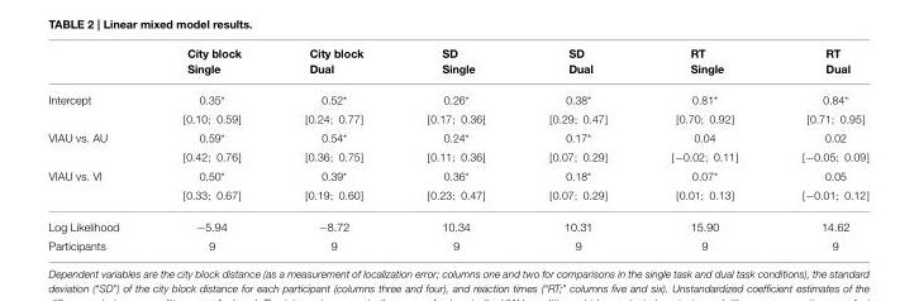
<table><thead><tr><td></td><td>City block Single</td><td>City block Dual</td><td>SD Single</td><td>SD Dual</td><td>RT Single</td><td>RT Dual</td></tr></thead><tbody><tr><td rowspan="2">Intercept</td><td>0.35*</td><td>0.52*</td><td>0.26*</td><td>0.38*</td><td>0.81*</td><td>0.84*</td></tr><tr><td>[0.10; 0.59]</td><td>[0.24; 0.77]</td><td>[0.17; 0.36]</td><td>[0.29; 0.47]</td><td>[0.70; 0.92]</td><td>[0.71; 0.95]</td></tr><tr><td rowspan="2">VIAU vs. AU</td><td>0.59*</td><td>0.54*</td><td>0.24*</td><td>0.17*</td><td>0.04</td><td>0.02</td></tr><tr><td>[0.42; 0.76]</td><td>[0.36; 0.75]</td><td>[0.11; 0.36]</td><td>[0.07; 0.29]</td><td>[−0.02; 0.11]</td><td>[−0.05; 0.09]</td></tr><tr><td rowspan="2">VIAU vs. VI</td><td>0.50*</td><td>0.39*</td><td>0.36*</td><td>0.18*</td><td>0.07*</td><td>0.05</td></tr><tr><td>[0.33; 0.67]</td><td>[0.19; 0.60]</td><td>[0.23; 0.47]</td><td>[0.07; 0.29]</td><td>[0.01; 0.13]</td><td>[−0.01; 0.12]</td></tr><tr><td>Log Likelihood</td><td>−5.94</td><td>−8.72</td><td>10.34</td><td>10.31</td><td>15.90</td><td>14.62</td></tr><tr><td>Participants</td><td>9</td><td>9</td><td>9</td><td>9</td><td>9</td><td>9</td></tr></tbody></table>